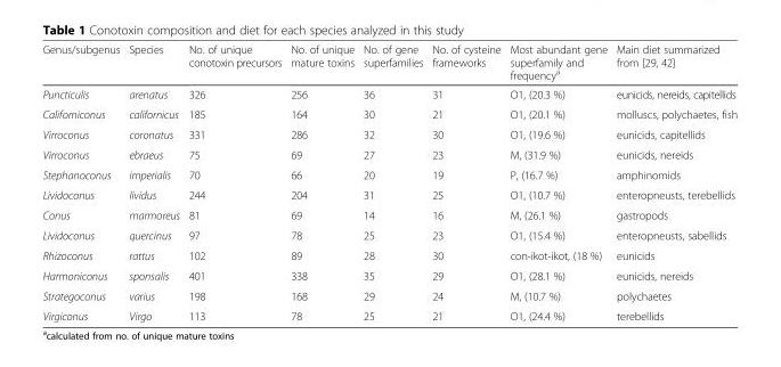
<table><thead><tr><td>Genus/subgenus</td><td>Species</td><td>No. of unique conotoxin precursors</td><td>No. of unique mature toxins</td><td>No. of gene superfamilies</td><td>No. of cysteine frameworks</td><td>Most abundant gene superfamily and frequency<sup>a</sup></td><td>Main diet summarized from [29, 42]</td></tr></thead><tbody><tr><td>Puncticulis</td><td>arenatus</td><td>326</td><td>256</td><td>36</td><td>31</td><td>O1, (20.3 %)</td><td>eunicids, nereids, capitellids</td></tr><tr><td>Californiconus</td><td>californicus</td><td>185</td><td>164</td><td>30</td><td>21</td><td>O1, (20.1 %)</td><td>molluscs, polychaetes, fish</td></tr><tr><td>Virroconus</td><td>coronatus</td><td>331</td><td>286</td><td>32</td><td>30</td><td>O1, (19.6 %)</td><td>eunicids, capitellids</td></tr><tr><td>Virroconus</td><td>ebraeus</td><td>75</td><td>69</td><td>27</td><td>23</td><td>M, (31.9 %)</td><td>eunicids, nereids</td></tr><tr><td>Stephanoconus</td><td>imperialis</td><td>70</td><td>66</td><td>20</td><td>19</td><td>P, (16.7 %)</td><td>amphinomids</td></tr><tr><td>Lividoconus</td><td>lividus</td><td>244</td><td>204</td><td>31</td><td>25</td><td>O1, (10.7 %)</td><td>enteropneusts, terebellids</td></tr><tr><td>Conus</td><td>marmoreus</td><td>81</td><td>69</td><td>14</td><td>16</td><td>M, (26.1 %)</td><td>gastropods</td></tr><tr><td>Lividoconus</td><td>quercinus</td><td>97</td><td>78</td><td>25</td><td>23</td><td>O1, (15.4 %)</td><td>enteropneusts, sabellids</td></tr><tr><td>Rhizoconus</td><td>rattus</td><td>102</td><td>89</td><td>28</td><td>30</td><td>con-ikot-ikot, (18 %)</td><td>eunicids</td></tr><tr><td>Harmoniconus</td><td>sponsalis</td><td>401</td><td>338</td><td>35</td><td>29</td><td>O1, (28.1 %)</td><td>eunicids, nereids</td></tr><tr><td>Strategoconus</td><td>varius</td><td>198</td><td>168</td><td>29</td><td>24</td><td>M, (10.7 %)</td><td>polychaetes</td></tr><tr><td>Virgiconus</td><td>Virgo</td><td>113</td><td>78</td><td>25</td><td>21</td><td>O1, (24.4 %)</td><td>terebellids</td></tr></tbody></table>